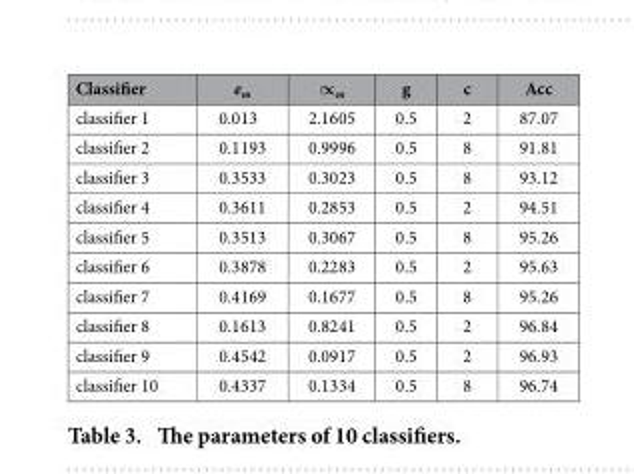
<table><thead><tr><td>Classifier</td><td>e<sub>m</sub></td><td>∝<sub>m</sub></td><td>g</td><td>c</td><td><sub>Acc</sub></td></tr></thead><tbody><tr><td>classifier 1</td><td>0.013</td><td>2.1605</td><td>0.5</td><td>2</td><td>87.07</td></tr><tr><td>classifier 2</td><td>0.1193</td><td>0.9996</td><td>0.5</td><td>8</td><td>91.81</td></tr><tr><td>classifier 3</td><td>0.3533</td><td>0.3023</td><td>0.5</td><td>8</td><td>93.12</td></tr><tr><td>classifier 4</td><td>0.3611</td><td>0.2853</td><td>0.5</td><td>2</td><td>94.51</td></tr><tr><td>classifier 5</td><td>0.3513</td><td>0.3067</td><td>0.5</td><td>8</td><td>95.26</td></tr><tr><td>classifier 6</td><td>0.3878</td><td>0.2283</td><td>0.5</td><td>2</td><td>95.63</td></tr><tr><td>classifier 7</td><td>0.4169</td><td>0.1677</td><td>0.5</td><td>8</td><td>95.26</td></tr><tr><td>classifier 8</td><td>0.1613</td><td>0.8241</td><td>0.5</td><td>2</td><td>96.84</td></tr><tr><td>classifier 9</td><td>0.4542</td><td>0.0917</td><td>0.5</td><td>2</td><td>96.93</td></tr><tr><td>classifier 10</td><td>0.4337</td><td>0.1334</td><td>0.5</td><td>8</td><td>96.74</td></tr></tbody></table>